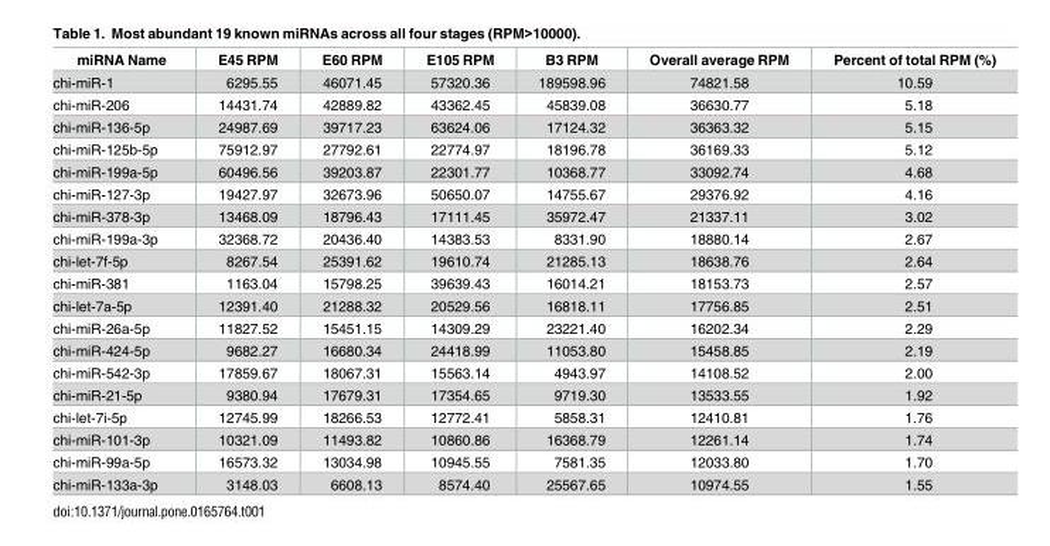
<table><thead><tr><td>miRNA Name</td><td>E45 RPM</td><td>E60 RPM</td><td>E105 RPM</td><td>B3 RPM</td><td>Overall average RPM</td><td>Percent of total RPM (%)</td></tr></thead><tbody><tr><td>chi-miR-1</td><td>6295.55</td><td>46071.45</td><td>57320.36</td><td>189598.96</td><td>74821.58</td><td>10.59</td></tr><tr><td>chi-miR-206</td><td>14431.74</td><td>42889.82</td><td>43362.45</td><td>45839.08</td><td>36630.77</td><td>5.18</td></tr><tr><td>chi-miR-136-5p</td><td>24987.69</td><td>39717.23</td><td>63624.06</td><td>17124.32</td><td>36363.32</td><td>5.15</td></tr><tr><td>chi-miR-125b-5p</td><td>75912.97</td><td>27792.61</td><td>22774.97</td><td>18196.78</td><td>36169.33</td><td>5.12</td></tr><tr><td>chi-miR-199a-5p</td><td>60496.56</td><td>39203.87</td><td>22301.77</td><td>10368.77</td><td>33092.74</td><td>4.68</td></tr><tr><td>chi-miR-127-3p</td><td>19427.97</td><td>32673.96</td><td>50650.07</td><td>14755.67</td><td>29376.92</td><td>4.16</td></tr><tr><td>chi-miR-378-3p</td><td>13468.09</td><td>18796.43</td><td>17111.45</td><td>35972.47</td><td>21337.11</td><td>3.02</td></tr><tr><td>chi-miR-199a-3p</td><td>32368.72</td><td>20436.40</td><td>14383.53</td><td>8331.90</td><td>18880.14</td><td>2.67</td></tr><tr><td>chi-let-7f-5p</td><td>8267.54</td><td>25391.62</td><td>19610.74</td><td>21285.13</td><td>18638.76</td><td>2.64</td></tr><tr><td>chi-miR-381</td><td>1163.04</td><td>15798.25</td><td>39639.43</td><td>16014.21</td><td>18153.73</td><td>2.57</td></tr><tr><td>chi-let-7a-5p</td><td>12391.40</td><td>21288.32</td><td>20529.56</td><td>16818.11</td><td>17756.85</td><td>2.51</td></tr><tr><td>chi-miR-26a-5p</td><td>11827.52</td><td>15451.15</td><td>14309.29</td><td>23221.40</td><td>16202.34</td><td>2.29</td></tr><tr><td>chi-miR-424-5p</td><td>9682.27</td><td>16680.34</td><td>24418.99</td><td>11053.80</td><td>15458.85</td><td>2.19</td></tr><tr><td>chi-miR-542-3p</td><td>17859.67</td><td>18067.31</td><td>15563.14</td><td>4943.97</td><td>14108.52</td><td>2.00</td></tr><tr><td>chi-miR-21-5p</td><td>9380.94</td><td>17679.31</td><td>17354.65</td><td>9719.30</td><td>13533.55</td><td>1.92</td></tr><tr><td>chi-let-7i-5p</td><td>12745.99</td><td>18266.53</td><td>12772.41</td><td>5858.31</td><td>12410.81</td><td>1.76</td></tr><tr><td>chi-miR-101-3p</td><td>10321.09</td><td>11493.82</td><td>10860.86</td><td>16368.79</td><td>12261.14</td><td>1.74</td></tr><tr><td>chi-miR-99a-5p</td><td>16573.32</td><td>13034.98</td><td>10945.55</td><td>7581.35</td><td>12033.80</td><td>1.70</td></tr><tr><td>chi-miR-133a-3p</td><td>3148.03</td><td>6608.13</td><td>8574.40</td><td>25567.65</td><td>10974.55</td><td>1.55</td></tr></tbody></table>